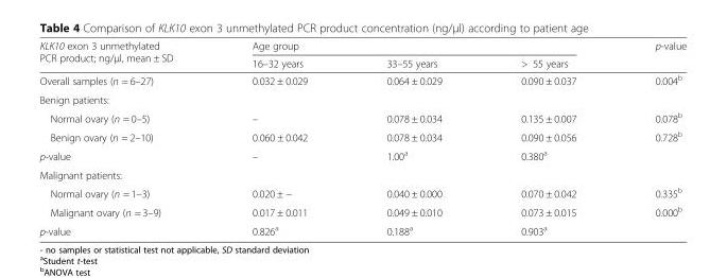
<table><thead><tr><td rowspan="2">KLK10 exon 3 unmethylated PCR product; ng/μl, mean ± SD</td><td colspan="3">Age group</td><td rowspan="2">p-value</td></tr><tr><td>16–32 years</td><td>33–55 years</td><td>&gt; 55 years</td></tr></thead><tbody><tr><td>Overall samples (n = 6–27)</td><td>0.032 ± 0.029</td><td>0.064 ± 0.029</td><td>0.090 ± 0.037</td><td>0.004<sup>b</sup></td></tr><tr><td colspan="5">Benign patients:</td></tr><tr><td>Normal ovary (n = 0–5)</td><td>–</td><td>0.078 ± 0.034</td><td>0.135 ± 0.007</td><td>0.078<sup>b</sup></td></tr><tr><td>Benign ovary (n = 2–10)</td><td>0.060 ± 0.042</td><td>0.078 ± 0.034</td><td>0.090 ± 0.056</td><td>0.728<sup>b</sup></td></tr><tr><td>p-value</td><td>–</td><td>1.00<sup>a</sup></td><td>0.380<sup>a</sup></td><td></td></tr><tr><td colspan="5">Malignant patients:</td></tr><tr><td>Normal ovary (n = 1–3)</td><td>0.020 ± −</td><td>0.040 ± 0.000</td><td>0.070 ± 0.042</td><td>0.335<sup>b</sup></td></tr><tr><td>Malignant ovary (n = 3–9)</td><td>0.017 ± 0.011</td><td>0.049 ± 0.010</td><td>0.073 ± 0.015</td><td>0.000<sup>b</sup></td></tr><tr><td>p-value</td><td>0.826<sup>a</sup></td><td>0.188<sup>a</sup></td><td>0.903<sup>a</sup></td><td></td></tr></tbody></table>